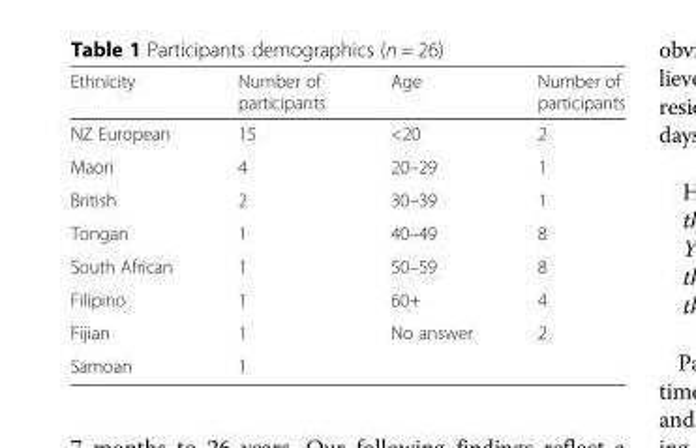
<table><thead><tr><td>Ethnicity</td><td>Number of participants</td><td>Age</td><td>Number of participants</td></tr></thead><tbody><tr><td>NZ European</td><td>15</td><td>&lt;20</td><td>2</td></tr><tr><td>Maori</td><td>4</td><td>20–29</td><td>1</td></tr><tr><td>British</td><td>2</td><td>30–39</td><td>1</td></tr><tr><td>Tongan</td><td>1</td><td>40–49</td><td>8</td></tr><tr><td>South African</td><td>1</td><td>50–59</td><td>8</td></tr><tr><td>Filipino</td><td>1</td><td>60+</td><td>4</td></tr><tr><td>Fijian</td><td>1</td><td>No answer</td><td>2</td></tr><tr><td>Samoan</td><td>1</td><td></td><td></td></tr></tbody></table>